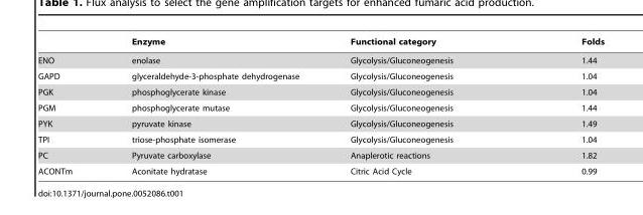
<table><thead><tr><td></td><td>Enzyme</td><td>Functional category</td><td>Folds</td></tr></thead><tbody><tr><td>ENO</td><td>enolase</td><td>Glycolysis/Gluconeogenesis</td><td>1.44</td></tr><tr><td>GAPD</td><td>glyceraldehyde-3-phosphate dehydrogenase</td><td>Glycolysis/Gluconeogenesis</td><td>1.04</td></tr><tr><td>PGK</td><td>phosphoglycerate kinase</td><td>Glycolysis/Gluconeogenesis</td><td>1.04</td></tr><tr><td>PGM</td><td>phosphoglycerate mutase</td><td>Glycolysis/Gluconeogenesis</td><td>1.44</td></tr><tr><td>PYK</td><td>pyruvate kinase</td><td>Glycolysis/Gluconeogenesis</td><td>1.49</td></tr><tr><td>TPI</td><td>triose-phosphate isomerase</td><td>Glycolysis/Gluconeogenesis</td><td>1.04</td></tr><tr><td>PC</td><td>Pyruvate carboxylase</td><td>Anaplerotic reactions</td><td>1.82</td></tr><tr><td>ACONTm</td><td>Aconitate hydratase</td><td>Citric Acid Cycle</td><td>0.99</td></tr></tbody></table>